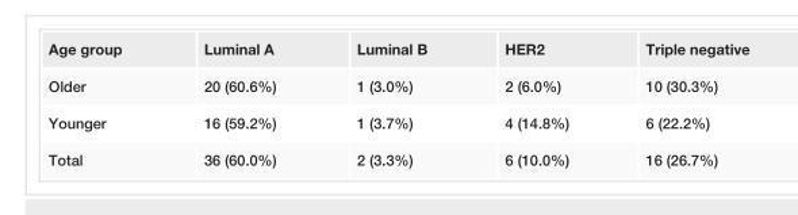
<table><tbody><tr><td>Age group</td><td>Luminal A</td><td>Luminal B</td><td>HER2</td><td>Triple negative</td></tr><tr><td>Older</td><td>20 (60.6%)</td><td>1 (3.0%)</td><td>2 (6.0%)</td><td>10 (30.3%)</td></tr><tr><td>Younger</td><td>16 (59.2%)</td><td>1 (3.7%)</td><td>4 (14.8%)</td><td>6 (22.2%)</td></tr><tr><td>Total</td><td>36 (60.0%)</td><td>2 (3.3%)</td><td>6 (10.0%)</td><td>16 (26.7%)</td></tr></tbody></table>